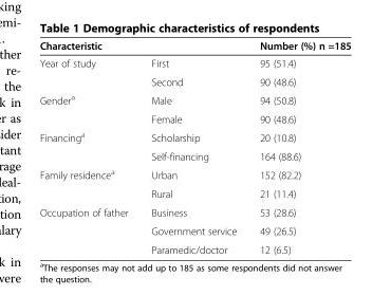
<table><thead><tr><td>Characteristic</td><td></td><td>Number (%) n =185</td></tr></thead><tbody><tr><td rowspan="2">Year of study</td><td>First</td><td>95 (51.4)</td></tr><tr><td>Second</td><td>90 (48.6)</td></tr><tr><td rowspan="2">Gender<sup>a</sup></td><td>Male</td><td>94 (50.8)</td></tr><tr><td>Female</td><td>90 (48.6)</td></tr><tr><td rowspan="2">Financing<sup>a</sup></td><td>Scholarship</td><td>20 (10.8)</td></tr><tr><td>Self-financing</td><td>164 (88.6)</td></tr><tr><td rowspan="2">Family residence<sup>a</sup></td><td>Urban</td><td>152 (82.2)</td></tr><tr><td>Rural</td><td>21 (11.4)</td></tr><tr><td rowspan="3">Occupation of father</td><td>Business</td><td>53 (28.6)</td></tr><tr><td>Government service</td><td>49 (26.5)</td></tr><tr><td>Paramedic/doctor</td><td>12 (6.5)</td></tr></tbody></table>